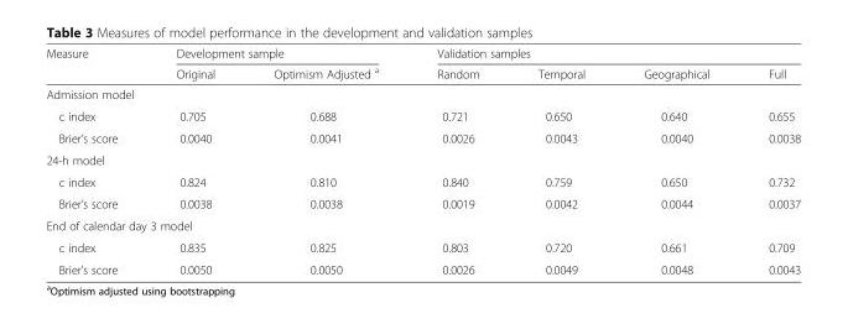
<table><thead><tr><td rowspan="2">Measure</td><td colspan="2">Development sample</td><td colspan="4">Validation samples</td></tr><tr><td>Original</td><td>Optimism Adjusted <sup>a</sup></td><td>Random</td><td>Temporal</td><td>Geographical</td><td>Full</td></tr></thead><tbody><tr><td colspan="7">Admission model</td></tr><tr><td>c index</td><td>0.705</td><td>0.688</td><td>0.721</td><td>0.650</td><td>0.640</td><td>0.655</td></tr><tr><td>Brier’s score</td><td>0.0040</td><td>0.0041</td><td>0.0026</td><td>0.0043</td><td>0.0040</td><td>0.0038</td></tr><tr><td colspan="7">24-h model</td></tr><tr><td>c index</td><td>0.824</td><td>0.810</td><td>0.840</td><td>0.759</td><td>0.650</td><td>0.732</td></tr><tr><td>Brier’s score</td><td>0.0038</td><td>0.0038</td><td>0.0019</td><td>0.0042</td><td>0.0044</td><td>0.0037</td></tr><tr><td colspan="7">End of calendar day 3 model</td></tr><tr><td>c index</td><td>0.835</td><td>0.825</td><td>0.803</td><td>0.720</td><td>0.661</td><td>0.709</td></tr><tr><td>Brier’s score</td><td>0.0050</td><td>0.0050</td><td>0.0026</td><td>0.0049</td><td>0.0048</td><td>0.0043</td></tr></tbody></table>